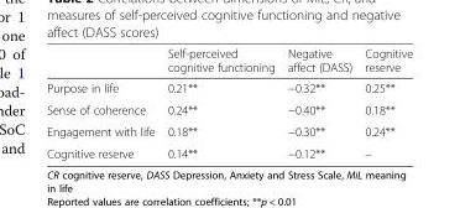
<table><thead><tr><td></td><td>Self-perceived cognitive functioning</td><td>Negative affect (DASS)</td><td>Cognitive reserve</td></tr></thead><tbody><tr><td>Purpose in life</td><td>0.21**</td><td>−0.32**</td><td>0.25**</td></tr><tr><td>Sense of coherence</td><td>0.24**</td><td>−0.40**</td><td>0.18**</td></tr><tr><td>Engagement with life</td><td>0.18**</td><td>−0.30**</td><td>0.24**</td></tr><tr><td>Cognitive reserve</td><td>0.14**</td><td>−0.12**</td><td>–</td></tr></tbody></table>